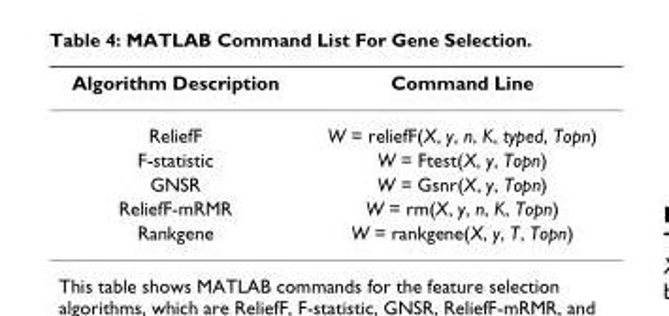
<table><thead><tr><td>Algorithm Description</td><td>Command Line</td></tr></thead><tbody><tr><td>ReliefF</td><td>W = reliefF(X, y, n, K, typed, Topn)</td></tr><tr><td>F-statistic</td><td>W = Ftest(X, y, Topn)</td></tr><tr><td>GNSR</td><td>W = Gsnr(X, y, Topn)</td></tr><tr><td>ReliefF-mRMR</td><td>W = rm(X, y, n, K, Topn)</td></tr><tr><td>Rankgene</td><td>W = rankgene(X, y, T, Topn)</td></tr></tbody></table>